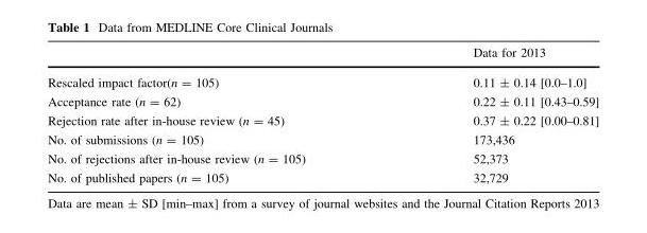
<table><thead><tr><td></td><td>Data for 2013</td></tr></thead><tbody><tr><td>Rescaled impact factor(n = 105)</td><td>0.11 ± 0.14 [0.0–1.0]</td></tr><tr><td>Acceptance rate (n = 62)</td><td>0.22 ± 0.11 [0.43–0.59]</td></tr><tr><td>Rejection rate after in-house review (n = 45)</td><td>0.37 ± 0.22 [0.00–0.81]</td></tr><tr><td>No. of submissions (n = 105)</td><td>173,436</td></tr><tr><td>No. of rejections after in-house review (n = 105)</td><td>52,373</td></tr><tr><td>No. of published papers (n = 105)</td><td>32,729</td></tr></tbody></table>